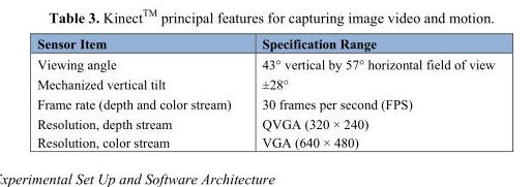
<table><thead><tr><td>Sensor Item</td><td>Specification Range</td></tr></thead><tbody><tr><td>Viewing angle</td><td>43° vertical by 57° horizontal field of view</td></tr><tr><td>Mechanized vertical tilt</td><td>±28°</td></tr><tr><td>Frame rate (depth and color stream)</td><td>30 frames per second (FPS)</td></tr><tr><td>Resolution, depth stream</td><td>QVGA (320 × 240)</td></tr><tr><td>Resolution, color stream</td><td>VGA (640 × 480)</td></tr></tbody></table>